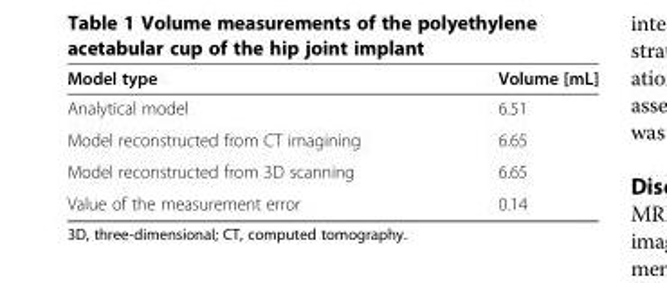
<table><thead><tr><td>Model type</td><td>Volume [mL]</td></tr></thead><tbody><tr><td>Analytical model</td><td>6.51</td></tr><tr><td>Model reconstructed from CT imagining</td><td>6.65</td></tr><tr><td>Model reconstructed from 3D scanning</td><td>6.65</td></tr><tr><td>Value of the measurement error</td><td>0.14</td></tr></tbody></table>